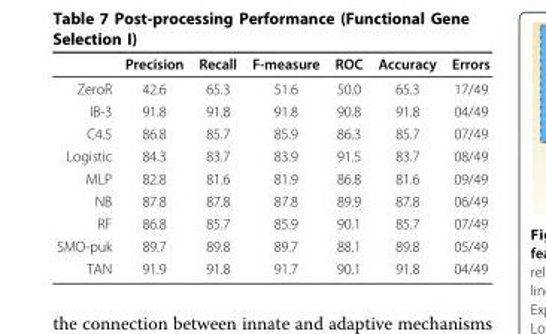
<table><thead><tr><td></td><td>Precision</td><td>Recall</td><td>F-measure</td><td>ROC</td><td>Accuracy</td><td>Errors</td></tr></thead><tbody><tr><td>ZeroR</td><td>42.6</td><td>65.3</td><td>51.6</td><td>50.0</td><td>65.3</td><td>17/49</td></tr><tr><td>IB-3</td><td>91.8</td><td>91.8</td><td>91.8</td><td>90.8</td><td>91.8</td><td>04/49</td></tr><tr><td>C4.5</td><td>86.8</td><td>85.7</td><td>85.9</td><td>86.3</td><td>85.7</td><td>07/49</td></tr><tr><td>Logistic</td><td>84.3</td><td>83.7</td><td>83.9</td><td>91.5</td><td>83.7</td><td>08/49</td></tr><tr><td>MLP</td><td>82.8</td><td>81.6</td><td>81.9</td><td>86.8</td><td>81.6</td><td>09/49</td></tr><tr><td>NB</td><td>87.8</td><td>87.8</td><td>87.8</td><td>89.9</td><td>87.8</td><td>06/49</td></tr><tr><td>RF</td><td>86.8</td><td>85.7</td><td>85.9</td><td>90.1</td><td>85.7</td><td>07/49</td></tr><tr><td>SMO-puk</td><td>89.7</td><td>89.8</td><td>89.7</td><td>88.1</td><td>89.8</td><td>05/49</td></tr><tr><td>TAN</td><td>91.9</td><td>91.8</td><td>91.7</td><td>90.1</td><td>91.8</td><td>04/49</td></tr></tbody></table>